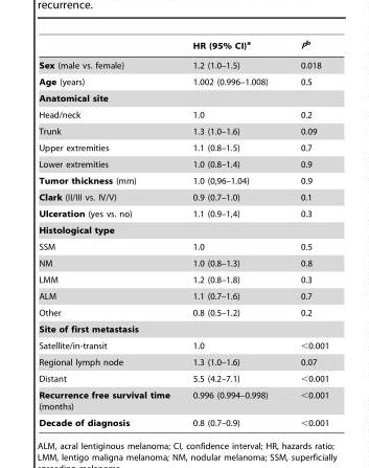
<table><thead><tr><td></td><td>HR (95% CI)<sup>a</sup></td><td>Pb</td></tr></thead><tbody><tr><td>Sex (male vs. female)</td><td>1.2 (1.0–1.5)</td><td>0.018</td></tr><tr><td>Age (years)</td><td>1.002 (0.996–1.008)</td><td>0.5</td></tr><tr><td colspan="3">Anatomical site</td></tr><tr><td>Head/neck</td><td>1.0</td><td>0.2</td></tr><tr><td>Trunk</td><td>1.3 (1.0–1.6)</td><td>0.09</td></tr><tr><td>Upper extremities</td><td>1.1 (0.8–1.5)</td><td>0.7</td></tr><tr><td>Lower extremities</td><td>1.0 (0.8–1.4)</td><td>0.9</td></tr><tr><td>Tumor thickness (mm)</td><td>1.0 (0,96–1.04)</td><td>0.9</td></tr><tr><td>Clark (II/III vs. IV/V)</td><td>0.9 (0.7–1.0)</td><td>0.1</td></tr><tr><td>Ulceration (yes vs. no)</td><td>1.1 (0.9–1,4)</td><td>0.3</td></tr><tr><td colspan="3">Histological type</td></tr><tr><td>SSM</td><td>1.0</td><td>0.5</td></tr><tr><td>NM</td><td>1.0 (0.8–1.3)</td><td>0.8</td></tr><tr><td>LMM</td><td>1.2 (0.8–1.8)</td><td>0.3</td></tr><tr><td>ALM</td><td>1.1 (0.7–1.6)</td><td>0.7</td></tr><tr><td>Other</td><td>0.8 (0.5–1.2)</td><td>0.2</td></tr><tr><td colspan="3">Site of first metastasis</td></tr><tr><td>Satellite/in-transit</td><td>1.0</td><td>&lt;0.001</td></tr><tr><td>Regional lymph node</td><td>1.3 (1.0–1.6)</td><td>0.07</td></tr><tr><td>Distant</td><td>5.5 (4.2–7.1)</td><td>&lt;0.001</td></tr><tr><td>Recurrence free survival time (months)</td><td>0.996 (0.994–0.998)</td><td>&lt;0.001</td></tr><tr><td>Decade of diagnosis</td><td>0.8 (0.7–0.9)</td><td>&lt;0.001</td></tr></tbody></table>